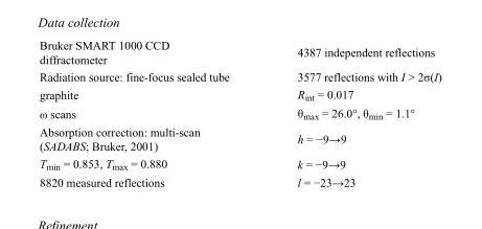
<table><tbody><tr><td>Bruker SMART 1000 CCD diffractometer</td><td>4387 independent reflections</td></tr><tr><td>Radiation source: fine-focus sealed tube</td><td>3577 reflections with I &gt; 2σ(I)</td></tr><tr><td>graphite</td><td>R<sub>int</sub> = 0.017</td></tr><tr><td>ω scans</td><td>θ<sub>max</sub> = 26.0°, θ<sub>min</sub> = 1.1°</td></tr><tr><td>Absorption correction: multi-scan (SADABS; Bruker, 2001)</td><td>h = −9→9</td></tr><tr><td>T<sub>min</sub> = 0.853, T<sub>max</sub> = 0.880</td><td>k = −9→9</td></tr><tr><td>8820 measured reflections</td><td>l = −23→23</td></tr></tbody></table>